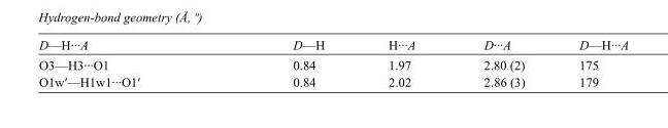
<table><tbody><tr><td>D—H···A</td><td>D—H</td><td>H···A</td><td>D···A</td><td>D—H···A</td></tr><tr><td>O3—H3···O1</td><td>0.84</td><td>1.97</td><td>2.80 (2)</td><td>175</td></tr><tr><td>O1w′—H1w1···O1′</td><td>0.84</td><td>2.02</td><td>2.86 (3)</td><td>179</td></tr></tbody></table>